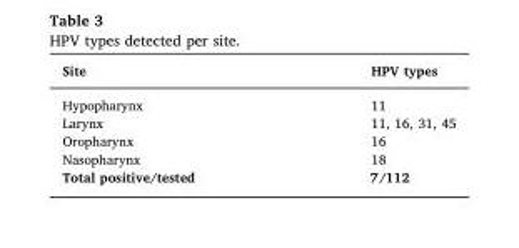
<table><thead><tr><td>Site</td><td>HPV types</td></tr></thead><tbody><tr><td>Hypopharynx</td><td>11</td></tr><tr><td>Larynx</td><td>11, 16, 31, 45</td></tr><tr><td>Oropharynx</td><td>16</td></tr><tr><td>Nasopharynx</td><td>18</td></tr><tr><td>Total positive/tested</td><td>7/112</td></tr></tbody></table>